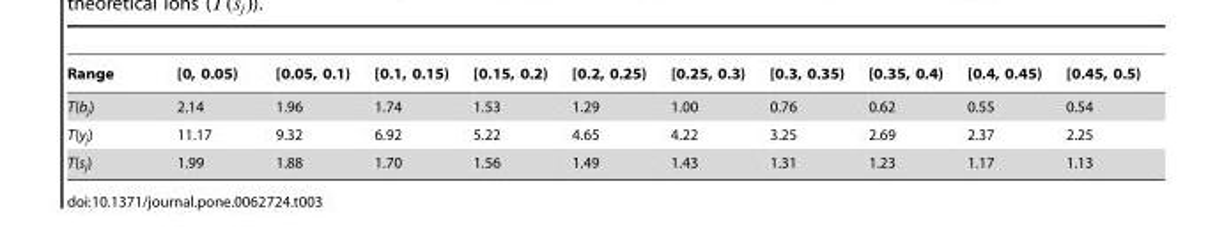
<table><thead><tr><td>Range</td><td>[0, 0.05)</td><td>[0.05, 0.1)</td><td>[0.1, 0.15)</td><td>[0.15, 0.2)</td><td>[0.2, 0.25)</td><td>[0.25, 0.3)</td><td>[0.3, 0.35)</td><td>[0.35, 0.4)</td><td>[0.4, 0.45)</td><td>[0.45, 0.5)</td></tr></thead><tbody><tr><td>T(b<sub>j</sub>)</td><td>2.14</td><td>1.96</td><td>1.74</td><td>1.53</td><td>1.29</td><td>1.00</td><td>0.76</td><td>0.62</td><td>0.55</td><td>0.54</td></tr><tr><td>T(y<sub>j</sub>)</td><td>11.17</td><td>9.32</td><td>6.92</td><td>5.22</td><td>4.65</td><td>4.22</td><td>3.25</td><td>2.69</td><td>2.37</td><td>2.25</td></tr><tr><td>T(s<sub>j</sub>)</td><td>1.99</td><td>1.88</td><td>1.70</td><td>1.56</td><td>1.49</td><td>1.43</td><td>1.31</td><td>1.23</td><td>1.17</td><td>1.13</td></tr></tbody></table>